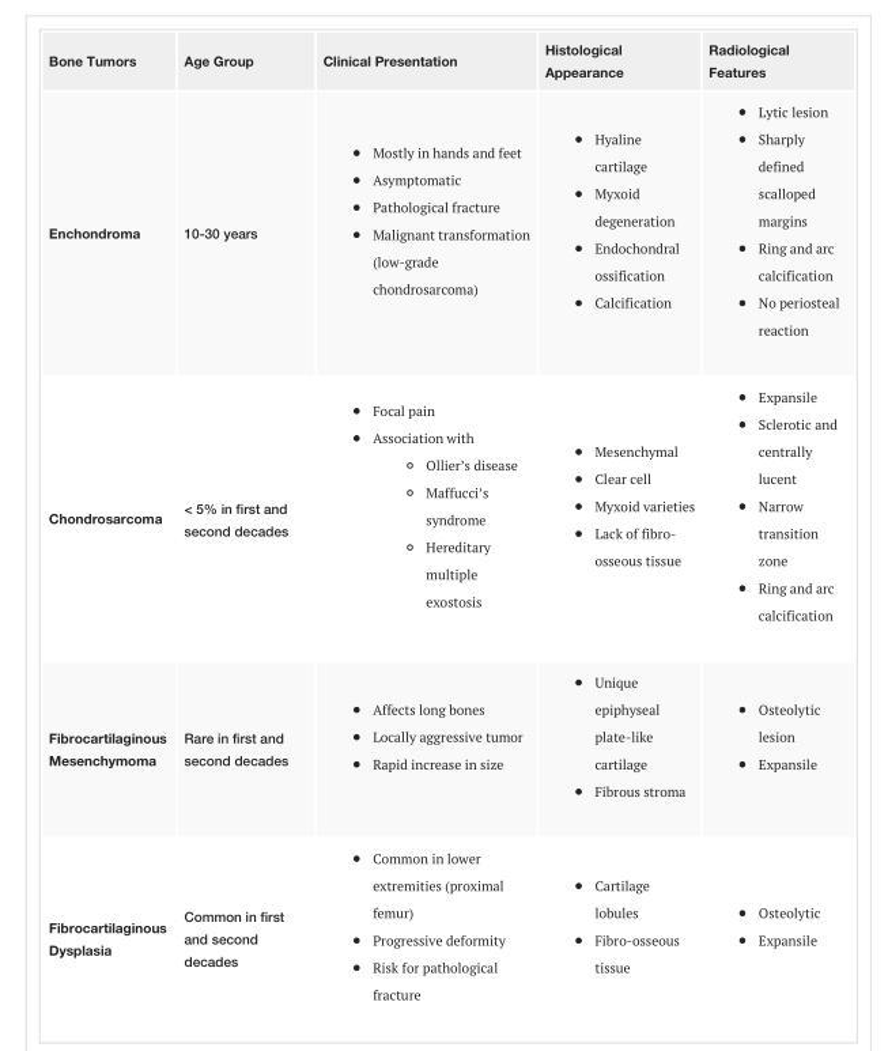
<table><tbody><tr><td>Bone Tumors</td><td>Age Group</td><td>Clinical Presentation</td><td>Histological Appearance</td><td>Radiological Features</td></tr><tr><td>Enchondroma</td><td>10-30 years</td><td>Mostly in hands and feet Asymptomatic Pathological fracture Malignant transformation (low-grade chondrosarcoma)</td><td>Hyaline cartilage Myxoid degeneration Endochondral ossification Calcification</td><td>Lytic lesion Sharply defined scalloped margins Ring and arc calcification No periosteal reaction</td></tr><tr><td>Chondrosarcoma</td><td>&lt; 5% in first and second decades</td><td>Focal pain Association with Ollier’s disease Maffucci’s syndrome Hereditary multiple exostosis</td><td>Mesenchymal Clear cell Myxoid varieties Lack of fibro- osseous tissue</td><td>Expansile Sclerotic and centrally lucent Narrow transition zone Ring and arc calcification</td></tr><tr><td>Fibrocartilaginous Mesenchymoma</td><td>Rare in first and second decades</td><td>Affects long bones Locally aggressive tumor Rapid increase in size</td><td>Unique epiphyseal plate-like cartilage Fibrous stroma</td><td>Osteolytic lesion Expansile</td></tr><tr><td>Fibrocartilaginous Dysplasia</td><td>Common in first and second decades</td><td>Common in lower extremities (proximal femur) Progressive deformity Risk for pathological fracture</td><td>Cartilage lobules Fibro-osseous tissue</td><td>Osteolytic Expansile</td></tr></tbody></table>